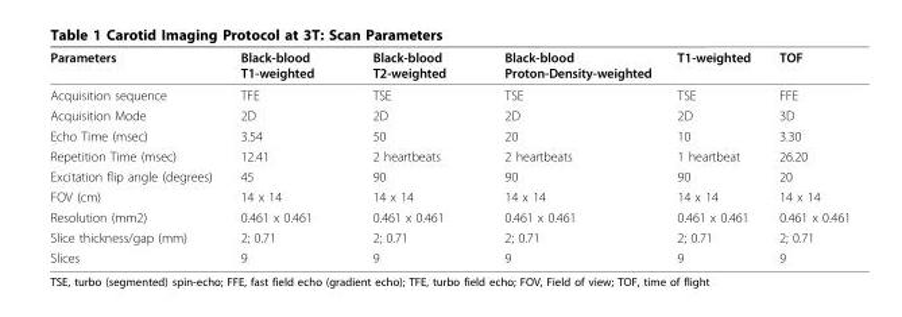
<table><thead><tr><td>Parameters</td><td>Black-blood T1-weighted</td><td>Black-blood T2-weighted</td><td>Black-blood Proton-Density-weighted</td><td>T1-weighted</td><td>TOF</td></tr></thead><tbody><tr><td>Acquisition sequence</td><td>TFE</td><td>TSE</td><td>TSE</td><td>TSE</td><td>FFE</td></tr><tr><td>Acquisition Mode</td><td>2D</td><td>2D</td><td>2D</td><td>2D</td><td>3D</td></tr><tr><td>Echo Time (msec)</td><td>3.54</td><td>50</td><td>20</td><td>10</td><td>3.30</td></tr><tr><td>Repetition Time (msec)</td><td>12.41</td><td>2 heartbeats</td><td>2 heartbeats</td><td>1 heartbeat</td><td>26.20</td></tr><tr><td>Excitation flip angle (degrees)</td><td>45</td><td>90</td><td>90</td><td>90</td><td>20</td></tr><tr><td>FOV (cm)</td><td>14 x 14</td><td>14 x 14</td><td>14 x 14</td><td>14 x 14</td><td>14 x 14</td></tr><tr><td>Resolution (mm2)</td><td>0.461 x 0.461</td><td>0.461 x 0.461</td><td>0.461 x 0.461</td><td>0.461 x 0.461</td><td>0.461 x 0.461</td></tr><tr><td>Slice thickness/gap (mm)</td><td>2; 0.71</td><td>2; 0.71</td><td>2; 0.71</td><td>2; 0.71</td><td>2; 0.71</td></tr><tr><td>Slices</td><td>9</td><td>9</td><td>9</td><td>9</td><td>9</td></tr></tbody></table>